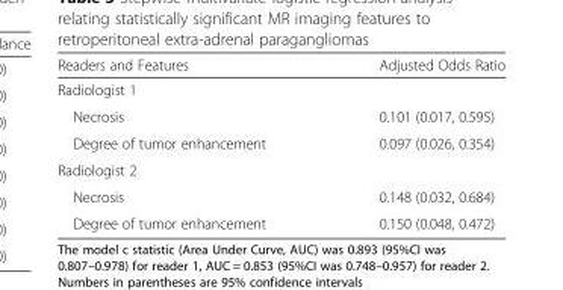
<table><thead><tr><td>Readers and Features</td><td>Adjusted Odds Ratio</td></tr></thead><tbody><tr><td colspan="2">Radiologist 1</td></tr><tr><td>Necrosis</td><td>0.101 (0.017, 0.595)</td></tr><tr><td>Degree of tumor enhancement</td><td>0.097 (0.026, 0.354)</td></tr><tr><td colspan="2">Radiologist 2</td></tr><tr><td>Necrosis</td><td>0.148 (0.032, 0.684)</td></tr><tr><td>Degree of tumor enhancement</td><td>0.150 (0.048, 0.472)</td></tr></tbody></table>